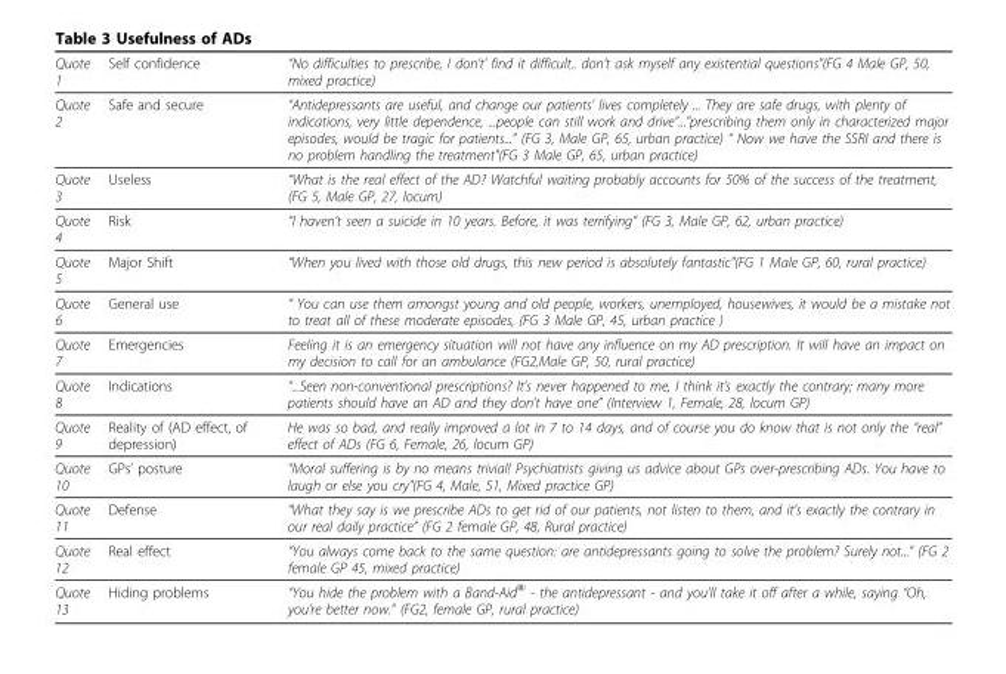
<table><thead><tr><td>Quote 1</td><td>Self confidence</td><td>“No difficulties to prescribe, I don’t’ find it difficult.. don’t ask myself any existential questions&quot;(FG 4 Male GP, 50, mixed practice)</td></tr></thead><tbody><tr><td>Quote 2</td><td>Safe and secure</td><td>“Antidepressants are useful, and change our patients’ lives completely ... They are safe drugs, with plenty of indications, very little dependence, ...people can still work and drive”...&quot;prescribing them only in characterized major episodes, would be tragic for patients...” (FG 3, Male GP, 65, urban practice) “ Now we have the SSRI and there is no problem handling the treatment&quot;(FG 3 Male GP, 65, urban practice)</td></tr><tr><td>Quote 3</td><td>Useless</td><td>“What is the real effect of the AD? Watchful waiting probably accounts for 50% of the success of the treatment, (FG 5, Male GP, 27, locum)</td></tr><tr><td>Quote 4</td><td>Risk</td><td>“I haven’t seen a suicide in 10 years. Before, it was terrifying” (FG 3, Male GP, 62, urban practice)</td></tr><tr><td>Quote 5</td><td>Major Shift</td><td>“When you lived with those old drugs, this new period is absolutely fantastic&quot;(FG 1 Male GP, 60, rural practice)</td></tr><tr><td>Quote 6</td><td>General use</td><td>“ You can use them amongst young and old people, workers, unemployed, housewives, it would be a mistake not to treat all of these moderate episodes, (FG 3 Male GP, 45, urban practice )</td></tr><tr><td>Quote 7</td><td>Emergencies</td><td>Feeling it is an emergency situation will not have any influence on my AD prescription. It will have an impact on my decision to call for an ambulance (FG2,Male GP, 50, rural practice)</td></tr><tr><td>Quote 8</td><td>Indications</td><td>“...Seen non-conventional prescriptions? It’s never happened to me, I think it’s exactly the contrary; many more patients should have an AD and they don’t have one” (Interview 1, Female, 28, locum GP)</td></tr><tr><td>Quote 9</td><td>Reality of (AD effect, of depression)</td><td>He was so bad, and really improved a lot in 7 to 14 days, and of course you do know that is not only the “real” effect of ADs (FG 6, Female, 26, locum GP)</td></tr><tr><td>Quote 10</td><td>GPs’ posture</td><td>“Moral suffering is by no means trivial! Psychiatrists giving us advice about GPs over-prescribing ADs. You have to laugh or else you cry&quot;(FG 4, Male, 51, Mixed practice GP)</td></tr><tr><td>Quote 11</td><td>Defense</td><td>“What they say is we prescribe ADs to get rid of our patients, not listen to them, and it’s exactly the contrary in our real daily practice” (FG 2 female GP, 48, Rural practice)</td></tr><tr><td>Quote 12</td><td>Real effect</td><td>“You always come back to the same question: are antidepressants going to solve the problem? Surely not...” (FG 2 female GP 45, mixed practice)</td></tr><tr><td>Quote 13</td><td>Hiding problems</td><td>“You hide the problem with a Band-Aid® - the antidepressant - and you’ll take it off after a while, saying “Oh, you’re better now.” (FG2, female GP, rural practice)</td></tr></tbody></table>